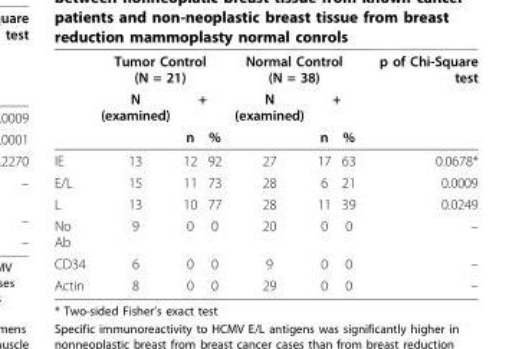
<table><thead><tr><td rowspan="3"></td><td colspan="3">Tumor Control (N = 21)</td><td colspan="3">Normal Control (N = 38)</td><td rowspan="3">p of Chi-Square test</td></tr><tr><td rowspan="2">N (examined)</td><td colspan="2">+</td><td rowspan="2">N (examined)</td><td colspan="2">+</td></tr><tr><td>n</td><td>%</td><td>n</td><td>%</td></tr></thead><tbody><tr><td>IE</td><td>13</td><td>12</td><td>92</td><td>27</td><td>17</td><td>63</td><td>0.0678*</td></tr><tr><td>E/L</td><td>15</td><td>11</td><td>73</td><td>28</td><td>6</td><td>21</td><td>0.0009</td></tr><tr><td>L</td><td>13</td><td>10</td><td>77</td><td>28</td><td>11</td><td>39</td><td>0.0249</td></tr><tr><td>No Ab</td><td>9</td><td>0</td><td>0</td><td>20</td><td>0</td><td>0</td><td>–</td></tr><tr><td>CD34</td><td>6</td><td>0</td><td>0</td><td>9</td><td>0</td><td>0</td><td>–</td></tr><tr><td>Actin</td><td>8</td><td>0</td><td>0</td><td>29</td><td>0</td><td>0</td><td>–</td></tr></tbody></table>